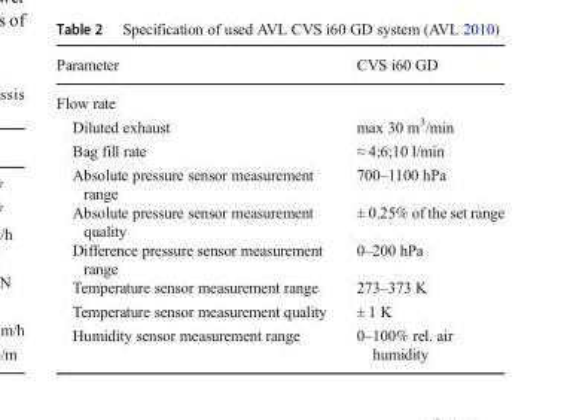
<table><thead><tr><td>Parameter</td><td>CVS i60 GD</td></tr></thead><tbody><tr><td colspan="2">Flow rate</td></tr><tr><td>Diluted exhaust</td><td>max 30 m<sup>3</sup>/min</td></tr><tr><td>Bag fill rate</td><td>≈ 4;6;10 l/min</td></tr><tr><td>Absolute pressure sensor measurement range</td><td>700–1100 hPa</td></tr><tr><td>Absolute pressure sensor measurement quality</td><td>± 0.25% of the set range</td></tr><tr><td>Difference pressure sensor measurement range</td><td>0–200 hPa</td></tr><tr><td>Temperature sensor measurement range</td><td>273–373 K</td></tr><tr><td>Temperature sensor measurement quality</td><td>± 1 K</td></tr><tr><td>Humidity sensor measurement range</td><td>0–100% rel. air humidity</td></tr></tbody></table>